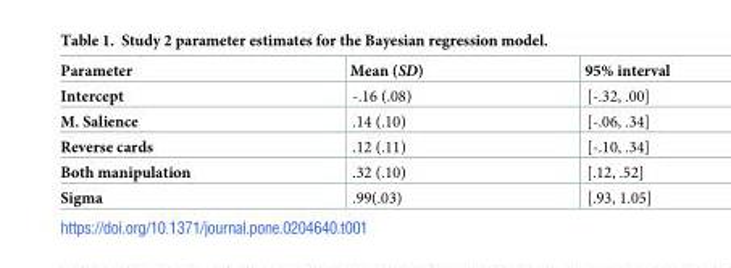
<table><thead><tr><td>Parameter</td><td>Mean (SD)</td><td>95% interval</td></tr></thead><tbody><tr><td>Intercept</td><td>-.16 (.08)</td><td>[-.32, .00]</td></tr><tr><td>M. Salience</td><td>.14 (.10)</td><td>[-.06, .34]</td></tr><tr><td>Reverse cards</td><td>.12 (.11)</td><td>[-.10, .34]</td></tr><tr><td>Both manipulation</td><td>.32 (.10)</td><td>[.12, .52]</td></tr><tr><td>Sigma</td><td>.99(.03)</td><td>[.93, 1.05]</td></tr></tbody></table>